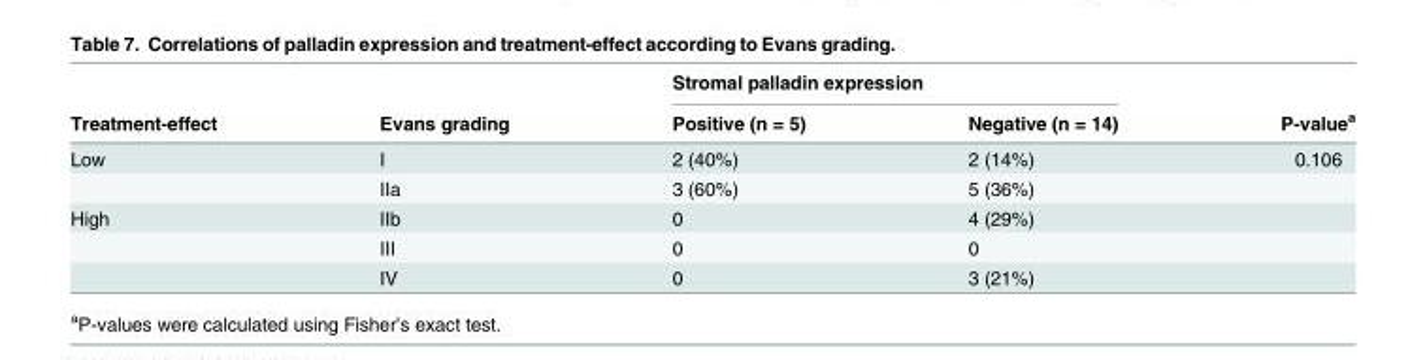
<table><thead><tr><td rowspan="2">Treatment-effect</td><td rowspan="2">Evans grading</td><td colspan="2">Stromal palladin expression</td><td rowspan="2">P-value<sup>a</sup></td></tr><tr><td>Positive (n = 5)</td><td>Negative (n = 14)</td></tr></thead><tbody><tr><td rowspan="2">Low</td><td>I</td><td>2 (40%)</td><td>2 (14%)</td><td>0.106</td></tr><tr><td>IIa</td><td>3 (60%)</td><td>5 (36%)</td><td></td></tr><tr><td rowspan="3">High</td><td>IIb</td><td>0</td><td>4 (29%)</td><td></td></tr><tr><td>III</td><td>0</td><td>0</td><td></td></tr><tr><td>IV</td><td>0</td><td>3 (21%)</td><td></td></tr></tbody></table>